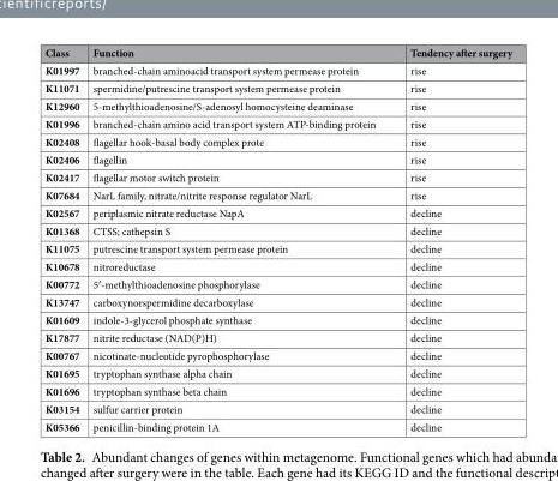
<table><thead><tr><td>Class</td><td>Function</td><td>Tendency after surgery</td></tr></thead><tbody><tr><td>K01997</td><td>branched-chain aminoacid transport system permease protein</td><td>rise</td></tr><tr><td>K11071</td><td>spermidine/putrescine transport system permease protein</td><td>rise</td></tr><tr><td>K12960</td><td>5-methylthioadenosine/S-adenosyl homocysteine deaminase</td><td>rise</td></tr><tr><td>K01996</td><td>branched-chain amino acid transport system ATP-binding protein</td><td>rise</td></tr><tr><td>K02408</td><td>flagellar hook-basal body complex prote</td><td>rise</td></tr><tr><td>K02406</td><td>flagellin</td><td>rise</td></tr><tr><td>K02417</td><td>flagellar motor switch protein</td><td>rise</td></tr><tr><td>K07684</td><td>NarL family, nitrate/nitrite response regulator NarL</td><td>rise</td></tr><tr><td>K02567</td><td>periplasmic nitrate reductase NapA</td><td>decline</td></tr><tr><td>K01368</td><td>CTSS; cathepsin S</td><td>decline</td></tr><tr><td>K11075</td><td>putrescine transport system permease protein</td><td>decline</td></tr><tr><td>K10678</td><td>nitroreductase</td><td>decline</td></tr><tr><td>K00772</td><td>5′-methylthioadenosine phosphorylase</td><td>decline</td></tr><tr><td>K13747</td><td>carboxynorspermidine decarboxylase</td><td>decline</td></tr><tr><td>K01609</td><td>indole-3-glycerol phosphate synthase</td><td>decline</td></tr><tr><td>K17877</td><td>nitrite reductase (NAD(P)H)</td><td>decline</td></tr><tr><td>K00767</td><td>nicotinate-nucleotide pyrophosphorylase</td><td>decline</td></tr><tr><td>K01695</td><td>tryptophan synthase alpha chain</td><td>decline</td></tr><tr><td>K01696</td><td>tryptophan synthase beta chain</td><td>decline</td></tr><tr><td>K03154</td><td>sulfur carrier protein</td><td>decline</td></tr><tr><td>K05366</td><td>penicillin-binding protein 1A</td><td>decline</td></tr></tbody></table>